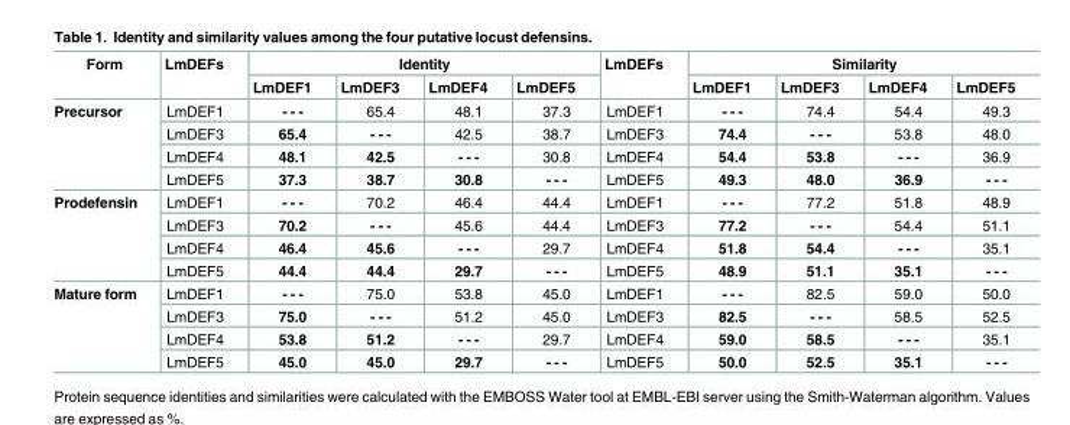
<table><thead><tr><td rowspan="2">Form</td><td rowspan="2">LmDEFs</td><td colspan="4">Identity</td><td rowspan="2">LmDEFs</td><td colspan="4">Similarity</td></tr><tr><td>LmDEF1</td><td>LmDEF3</td><td>LmDEF4</td><td>LmDEF5</td><td>LmDEF1</td><td>LmDEF3</td><td>LmDEF4</td><td>LmDEF5</td></tr></thead><tbody><tr><td rowspan="4">Precursor</td><td>LmDEF1</td><td>- - -</td><td>65.4</td><td>48.1</td><td>37.3</td><td>LmDEF1</td><td>- - -</td><td>74.4</td><td>54.4</td><td>49.3</td></tr><tr><td>LmDEF3</td><td>65.4</td><td>- - -</td><td>42.5</td><td>38.7</td><td>LmDEF3</td><td>74.4</td><td>- - -</td><td>53.8</td><td>48.0</td></tr><tr><td>LmDEF4</td><td>48.1</td><td>42.5</td><td>- - -</td><td>30.8</td><td>LmDEF4</td><td>54.4</td><td>53.8</td><td>- - -</td><td>36.9</td></tr><tr><td>LmDEF5</td><td>37.3</td><td>38.7</td><td>30.8</td><td>- - -</td><td>LmDEF5</td><td>49.3</td><td>48.0</td><td>36.9</td><td>- - -</td></tr><tr><td rowspan="4">Prodefensin</td><td>LmDEF1</td><td>- - -</td><td>70.2</td><td>46.4</td><td>44.4</td><td>LmDEF1</td><td>- - -</td><td>77.2</td><td>51.8</td><td>48.9</td></tr><tr><td>LmDEF3</td><td>70.2</td><td>- - -</td><td>45.6</td><td>44.4</td><td>LmDEF3</td><td>77.2</td><td>- - -</td><td>54.4</td><td>51.1</td></tr><tr><td>LmDEF4</td><td>46.4</td><td>45.6</td><td>- - -</td><td>29.7</td><td>LmDEF4</td><td>51.8</td><td>54.4</td><td>- - -</td><td>35.1</td></tr><tr><td>LmDEF5</td><td>44.4</td><td>44.4</td><td>29.7</td><td>- - -</td><td>LmDEF5</td><td>48.9</td><td>51.1</td><td>35.1</td><td>- - -</td></tr><tr><td rowspan="4">Mature form</td><td>LmDEF1</td><td>- - -</td><td>75.0</td><td>53.8</td><td>45.0</td><td>LmDEF1</td><td>- - -</td><td>82.5</td><td>59.0</td><td>50.0</td></tr><tr><td>LmDEF3</td><td>75.0</td><td>- - -</td><td>51.2</td><td>45.0</td><td>LmDEF3</td><td>82.5</td><td>- - -</td><td>58.5</td><td>52.5</td></tr><tr><td>LmDEF4</td><td>53.8</td><td>51.2</td><td>- - -</td><td>29.7</td><td>LmDEF4</td><td>59.0</td><td>58.5</td><td>- - -</td><td>35.1</td></tr><tr><td>LmDEF5</td><td>45.0</td><td>45.0</td><td>29.7</td><td>- - -</td><td>LmDEF5</td><td>50.0</td><td>52.5</td><td>35.1</td><td>- - -</td></tr></tbody></table>